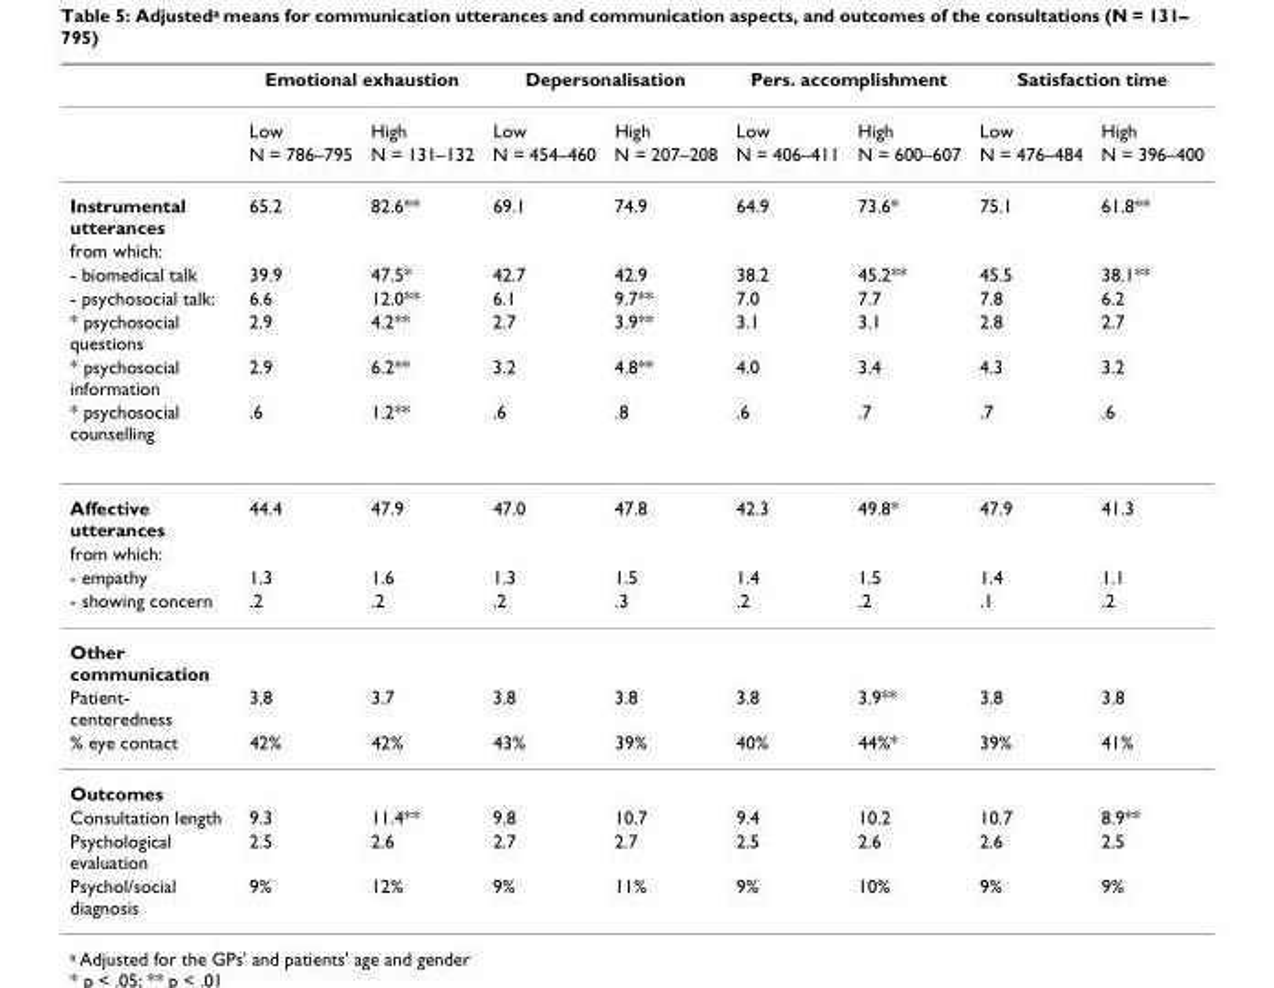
<table><thead><tr><td rowspan="2"></td><td colspan="2">Emotional exhaustion</td><td colspan="2">Depersonalisation</td><td colspan="2">Pers. accomplishment</td><td colspan="2">Satisfaction time</td></tr><tr><td>Low</td><td>High</td><td>Low</td><td>High</td><td>Low</td><td>High</td><td>Low</td><td>High</td></tr></thead><tbody><tr><td></td><td>N = 786–795</td><td>N = 131–132</td><td>N = 454–460</td><td>N = 207–208</td><td>N = 406–411</td><td>N = 600–607</td><td>N = 476–484</td><td>N = 396–400</td></tr><tr><td>Instrumental utterances</td><td>65.2</td><td>82.6**</td><td>69.1</td><td>74.9</td><td>64.9</td><td>73.6*</td><td>75.1</td><td>61.8**</td></tr><tr><td colspan="9">from which:</td></tr><tr><td>- biomedical talk</td><td>39.9</td><td>47.5*</td><td>42.7</td><td>42.9</td><td>38.2</td><td>45.2**</td><td>45.5</td><td>38.1**</td></tr><tr><td>- psychosocial talk:</td><td>6.6</td><td>12.0**</td><td>6.1</td><td>9.7**</td><td>7.0</td><td>7.7</td><td>7.8</td><td>6.2</td></tr><tr><td>* psychosocial questions</td><td>2.9</td><td>4.2**</td><td>2.7</td><td>3.9**</td><td>3.1</td><td>3.1</td><td>2.8</td><td>2.7</td></tr><tr><td>* psychosocial information</td><td>2.9</td><td>6.2**</td><td>3.2</td><td>4.8**</td><td>4.0</td><td>3.4</td><td>4.3</td><td>3.2</td></tr><tr><td>* psychosocial counselling</td><td>.6</td><td>1.2**</td><td>.6</td><td>.8</td><td>.6</td><td>.7</td><td>.7</td><td>.6</td></tr><tr><td>Affective utterances</td><td>44.4</td><td>47.9</td><td>47.0</td><td>47.8</td><td>42.3</td><td>49.8*</td><td>47.9</td><td>41.3</td></tr><tr><td colspan="9">from which:</td></tr><tr><td>- empathy</td><td>1.3</td><td>1.6</td><td>1.3</td><td>1.5</td><td>1.4</td><td>1.5</td><td>1.4</td><td>1.1</td></tr><tr><td>- showing concern</td><td>.2</td><td>.2</td><td>.2</td><td>.3</td><td>.2</td><td>.2</td><td>.1</td><td>.2</td></tr><tr><td colspan="9">Other communication</td></tr><tr><td>Patient- centeredness</td><td>3.8</td><td>3.7</td><td>3.8</td><td>3.8</td><td>3.8</td><td>3.9**</td><td>3.8</td><td>3.8</td></tr><tr><td>% eye contact</td><td>42%</td><td>42%</td><td>43%</td><td>39%</td><td>40%</td><td>44%*</td><td>39%</td><td>41%</td></tr><tr><td colspan="9">Outcomes</td></tr><tr><td>Consultation length</td><td>9.3</td><td>11.4**</td><td>9.8</td><td>10.7</td><td>9.4</td><td>10.2</td><td>10.7</td><td>8.9**</td></tr><tr><td>Psychological evaluation</td><td>2.5</td><td>2.6</td><td>2.7</td><td>2.7</td><td>2.5</td><td>2.6</td><td>2.6</td><td>2.5</td></tr><tr><td>Psychol/social diagnosis</td><td>9%</td><td>12%</td><td>9%</td><td>11%</td><td>9%</td><td>10%</td><td>9%</td><td>9%</td></tr></tbody></table>